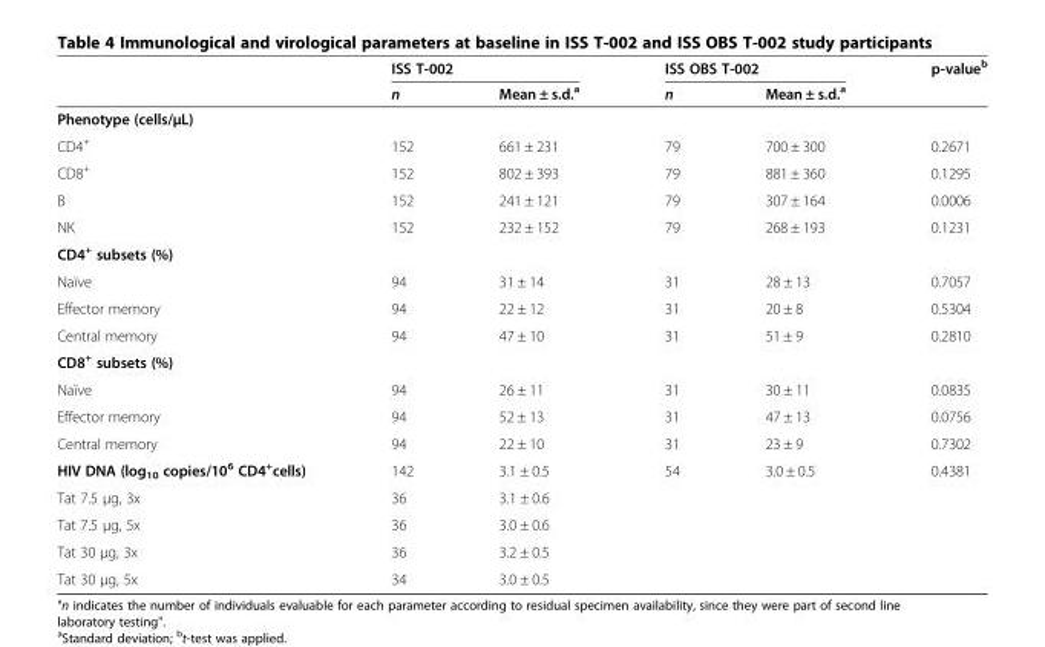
<table><thead><tr><td rowspan="2"></td><td colspan="2">ISS T-002</td><td colspan="2">ISS OBS T-002</td><td rowspan="2">p-value<sup>b</sup></td></tr><tr><td>n</td><td>Mean ± s.d.<sup>a</sup></td><td>n</td><td>Mean ± s.d.<sup>a</sup></td></tr></thead><tbody><tr><td colspan="6">Phenotype (cells/μL)</td></tr><tr><td>CD4<sup>+</sup></td><td>152</td><td>661 ± 231</td><td>79</td><td>700 ± 300</td><td>0.2671</td></tr><tr><td>CD8<sup>+</sup></td><td>152</td><td>802 ± 393</td><td>79</td><td>881 ± 360</td><td>0.1295</td></tr><tr><td>B</td><td>152</td><td>241 ± 121</td><td>79</td><td>307 ± 164</td><td>0.0006</td></tr><tr><td>NK</td><td>152</td><td>232 ± 152</td><td>79</td><td>268 ± 193</td><td>0.1231</td></tr><tr><td colspan="6">CD4<sup>+</sup> subsets (%)</td></tr><tr><td>Naïve</td><td>94</td><td>31 ± 14</td><td>31</td><td>28 ± 13</td><td>0.7057</td></tr><tr><td>Effector memory</td><td>94</td><td>22 ± 12</td><td>31</td><td>20 ± 8</td><td>0.5304</td></tr><tr><td>Central memory</td><td>94</td><td>47 ± 10</td><td>31</td><td>51 ± 9</td><td>0.2810</td></tr><tr><td colspan="6">CD8<sup>+</sup> subsets (%)</td></tr><tr><td>Naïve</td><td>94</td><td>26 ± 11</td><td>31</td><td>30 ± 11</td><td>0.0835</td></tr><tr><td>Effector memory</td><td>94</td><td>52 ± 13</td><td>31</td><td>47 ± 13</td><td>0.0756</td></tr><tr><td>Central memory</td><td>94</td><td>22 ± 10</td><td>31</td><td>23 ± 9</td><td>0.7302</td></tr><tr><td>HIV DNA (log<sub>10</sub> copies/10<sup>6</sup> CD4<sup>+</sup>cells)</td><td>142</td><td>3.1 ± 0.5</td><td>54</td><td>3.0 ± 0.5</td><td>0.4381</td></tr><tr><td>Tat 7.5 μg, 3x</td><td>36</td><td>3.1 ± 0.6</td><td></td><td></td><td></td></tr><tr><td>Tat 7.5 μg, 5x</td><td>36</td><td>3.0 ± 0.6</td><td></td><td></td><td></td></tr><tr><td>Tat 30 μg, 3x</td><td>36</td><td>3.2 ± 0.5</td><td></td><td></td><td></td></tr><tr><td>Tat 30 μg, 5x</td><td>34</td><td>3.0 ± 0.5</td><td></td><td></td><td></td></tr></tbody></table>